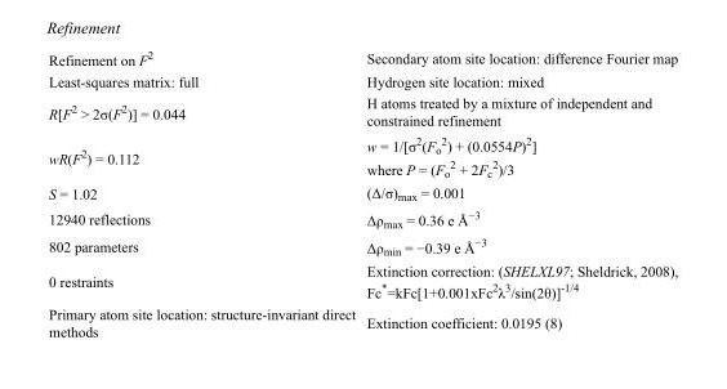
<table><tbody><tr><td>Refinement on F<sup>2</sup></td><td>Secondary atom site location: difference Fourier map</td></tr><tr><td>Least-squares matrix: full</td><td>Hydrogen site location: mixed</td></tr><tr><td>R[F<sup>2</sup> &gt; 2σ(F<sup>2</sup>)] = 0.044</td><td>H atoms treated by a mixture of independent and constrained refinement</td></tr><tr><td>wR(F<sup>2</sup>) = 0.112</td><td>w = 1/[σ<sup>2</sup>(F<sub>o</sub> <sup>2</sup>) + (0.0554P)<sup>2</sup>] where P = (F<sub>o</sub> <sup>2</sup> + 2F<sub>c</sub> <sup>2</sup>)/3</td></tr><tr><td>S = 1.02</td><td>(Δ/σ)<sub>max</sub> = 0.001</td></tr><tr><td>12940 reflections</td><td>Δρ<sub>max</sub> = 0.36 e Å<sup>−3</sup></td></tr><tr><td>802 parameters</td><td>Δρ<sub>min</sub> = −0.39 e Å<sup>−3</sup></td></tr><tr><td>0 restraints</td><td>Extinction correction: (SHELXL97; Sheldrick, 2008), Fc*=kFc[1+0.001xFc<sup>2</sup>λ<sup>3</sup>/sin(2θ)]<sup>-1/4</sup></td></tr><tr><td>Primary atom site location: structure-invariant direct methods</td><td>Extinction coefficient: 0.0195 (8)</td></tr></tbody></table>